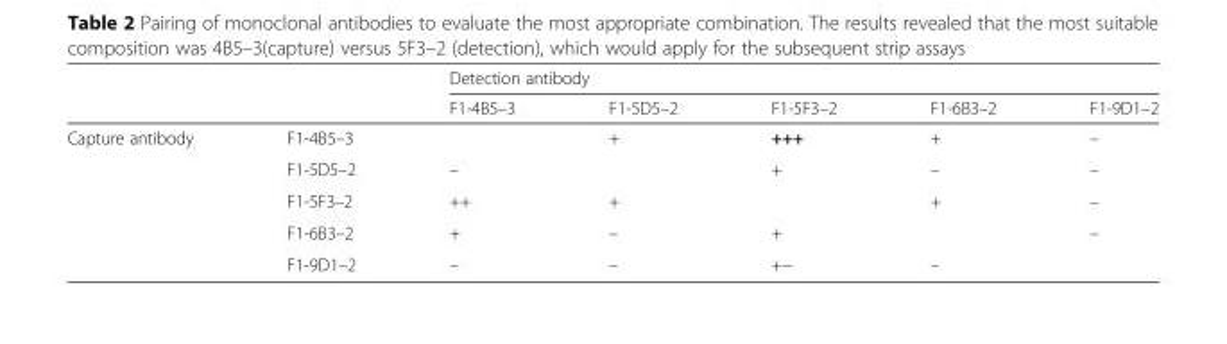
<table><thead><tr><td rowspan="2"></td><td rowspan="2"></td><td colspan="5">Detection antibody</td></tr><tr><td>F1-4B5–3</td><td>F1-5D5–2</td><td>F1-5F3–2</td><td>F1-6B3–2</td><td>F1-9D1–2</td></tr></thead><tbody><tr><td rowspan="5">Capture antibody</td><td>F1-4B5–3</td><td></td><td>+</td><td>+++</td><td>+</td><td>–</td></tr><tr><td>F1-5D5–2</td><td>–</td><td></td><td>+</td><td>–</td><td>–</td></tr><tr><td>F1-5F3–2</td><td>++</td><td>+</td><td></td><td>+</td><td>–</td></tr><tr><td>F1-6B3–2</td><td>+</td><td>–</td><td>+</td><td></td><td>–</td></tr><tr><td>F1-9D1–2</td><td>–</td><td>–</td><td>+−</td><td>–</td><td></td></tr></tbody></table>